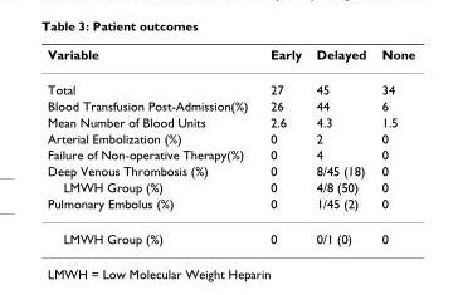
<table><thead><tr><td>Variable</td><td>Early</td><td>Delayed</td><td>None</td></tr></thead><tbody><tr><td>Total</td><td>27</td><td>45</td><td>34</td></tr><tr><td>Blood Transfusion Post-Admission(%)</td><td>26</td><td>44</td><td>6</td></tr><tr><td>Mean Number of Blood Units</td><td>2.6</td><td>4.3</td><td>1.5</td></tr><tr><td>Arterial Embolization (%)</td><td>0</td><td>2</td><td>0</td></tr><tr><td>Failure of Non-operative Therapy(%)</td><td>0</td><td>4</td><td>0</td></tr><tr><td>Deep Venous Thrombosis (%)</td><td>0</td><td>8/45 (18)</td><td>0</td></tr><tr><td>LMWH Group (%)</td><td>0</td><td>4/8 (50)</td><td>0</td></tr><tr><td>Pulmonary Embolus (%)</td><td>0</td><td>1/45 (2)</td><td>0</td></tr><tr><td>LMWH Group (%)</td><td>0</td><td>0/1 (0)</td><td>0</td></tr></tbody></table>